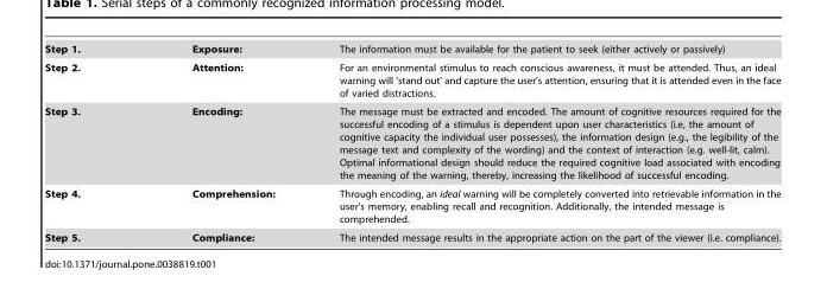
<table><tbody><tr><td>Step 1.</td><td>Exposure:</td><td>The information must be available for the patient to seek (either actively or passively)</td></tr><tr><td>Step 2.</td><td>Attention:</td><td>For an environmental stimulus to reach conscious awareness, it must be attended. Thus, an ideal warning will ‘stand out’ and capture the user’s attention, ensuring that it is attended even in the face of varied distractions.</td></tr><tr><td>Step 3.</td><td>Encoding:</td><td>The message must be extracted and encoded. The amount of cognitive resources required for the successful encoding of a stimulus is dependent upon user characteristics (i.e, the amount of cognitive capacity the individual user possesses), the information design (e.g., the legibility of the message text and complexity of the wording) and the context of interaction (e.g. well-lit, calm). Optimal informational design should reduce the required cognitive load associated with encoding the meaning of the warning, thereby, increasing the likelihood of successful encoding.</td></tr><tr><td>Step 4.</td><td>Comprehension:</td><td>Through encoding, an ideal warning will be completely converted into retrievable information in the user’s memory, enabling recall and recognition. Additionally, the intended message is comprehended.</td></tr><tr><td>Step 5.</td><td>Compliance:</td><td>The intended message results in the appropriate action on the part of the viewer (i.e. compliance).</td></tr></tbody></table>